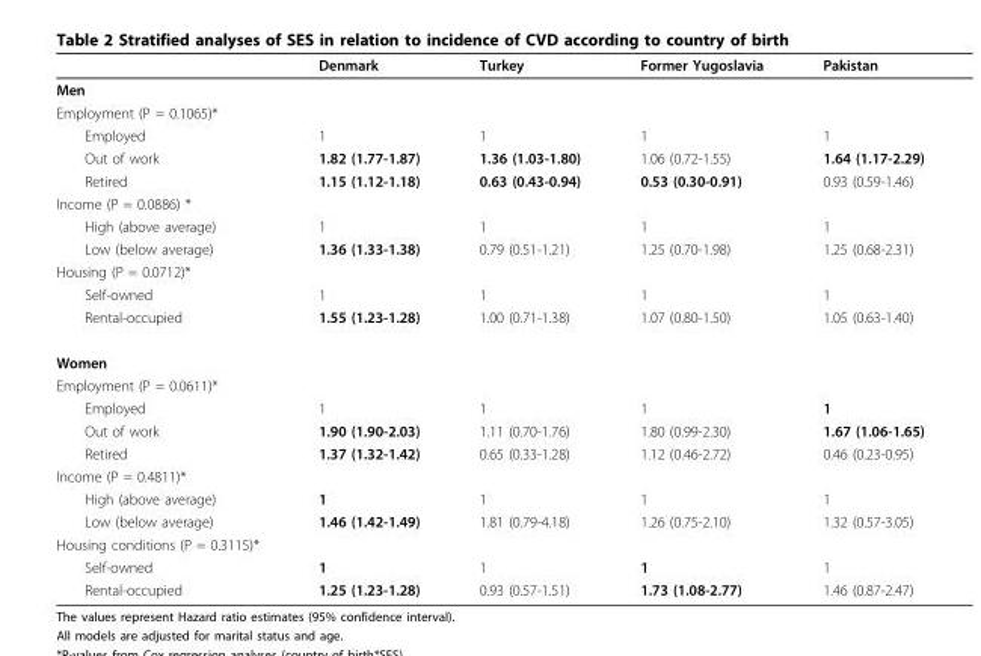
<table><thead><tr><td></td><td>Denmark</td><td>Turkey</td><td>Former Yugoslavia</td><td>Pakistan</td></tr></thead><tbody><tr><td colspan="5">Men</td></tr><tr><td colspan="5">Employment (P = 0.1065)*</td></tr><tr><td>Employed</td><td>1</td><td>1</td><td>1</td><td>1</td></tr><tr><td>Out of work</td><td>1.82 (1.77-1.87)</td><td>1.36 (1.03-1.80)</td><td>1.06 (0.72-1.55)</td><td>1.64 (1.17-2.29)</td></tr><tr><td>Retired</td><td>1.15 (1.12-1.18)</td><td>0.63 (0.43-0.94)</td><td>0.53 (0.30-0.91)</td><td>0.93 (0.59-1.46)</td></tr><tr><td colspan="5">Income (P = 0.0886) *</td></tr><tr><td>High (above average)</td><td>1</td><td>1</td><td>1</td><td>1</td></tr><tr><td>Low (below average)</td><td>1.36 (1.33-1.38)</td><td>0.79 (0.51-1.21)</td><td>1.25 (0.70-1.98)</td><td>1.25 (0.68-2.31)</td></tr><tr><td colspan="5">Housing (P = 0.0712)*</td></tr><tr><td>Self-owned</td><td>1</td><td>1</td><td>1</td><td>1</td></tr><tr><td>Rental-occupied</td><td>1.55 (1.23-1.28)</td><td>1.00 (0.71-1.38)</td><td>1.07 (0.80-1.50)</td><td>1.05 (0.63-1.40)</td></tr><tr><td colspan="5">Women</td></tr><tr><td colspan="5">Employment (P = 0.0611)*</td></tr><tr><td>Employed</td><td>1</td><td>1</td><td>1</td><td>1</td></tr><tr><td>Out of work</td><td>1.90 (1.90-2.03)</td><td>1.11 (0.70-1.76)</td><td>1.80 (0.99-2.30)</td><td>1.67 (1.06-1.65)</td></tr><tr><td>Retired</td><td>1.37 (1.32-1.42)</td><td>0.65 (0.33-1.28)</td><td>1.12 (0.46-2.72)</td><td>0.46 (0.23-0.95)</td></tr><tr><td colspan="5">Income (P = 0.4811)*</td></tr><tr><td>High (above average)</td><td>1</td><td>1</td><td>1</td><td>1</td></tr><tr><td>Low (below average)</td><td>1.46 (1.42-1.49)</td><td>1.81 (0.79-4.18)</td><td>1.26 (0.75-2.10)</td><td>1.32 (0.57-3.05)</td></tr><tr><td colspan="5">Housing conditions (P = 0.3115)*</td></tr><tr><td>Self-owned</td><td>1</td><td>1</td><td>1</td><td>1</td></tr><tr><td>Rental-occupied</td><td>1.25 (1.23-1.28)</td><td>0.93 (0.57-1.51)</td><td>1.73 (1.08-2.77)</td><td>1.46 (0.87-2.47)</td></tr></tbody></table>